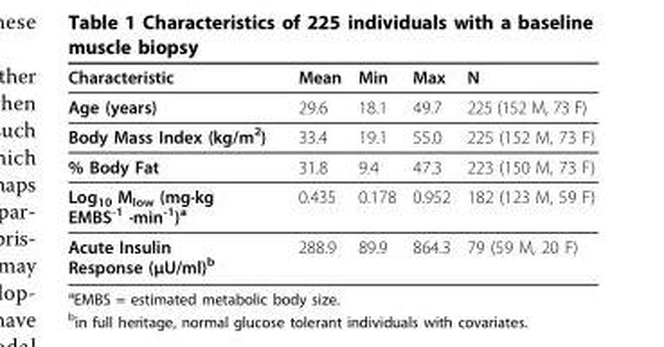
<table><thead><tr><td>Characteristic</td><td>Mean</td><td>Min</td><td>Max</td><td>N</td></tr></thead><tbody><tr><td>Age (years)</td><td>29.6</td><td>18.1</td><td>49.7</td><td>225 (152 M, 73 F)</td></tr><tr><td>Body Mass Index (kg/m<sup>2</sup>)</td><td>33.4</td><td>19.1</td><td>55.0</td><td>225 (152 M, 73 F)</td></tr><tr><td>% Body Fat</td><td>31.8</td><td>9.4</td><td>47.3</td><td>223 (150 M, 73 F)</td></tr><tr><td>Log<sub>10</sub> M<sub>low</sub> (mg·kg EMBS<sup>-1</sup> ·min<sup>-1</sup>)<sup>a</sup></td><td>0.435</td><td>0.178</td><td>0.952</td><td>182 (123 M, 59 F)</td></tr><tr><td>Acute Insulin Response (μU/ml)<sup>b</sup></td><td>288.9</td><td>89.9</td><td>864.3</td><td>79 (59 M, 20 F)</td></tr></tbody></table>